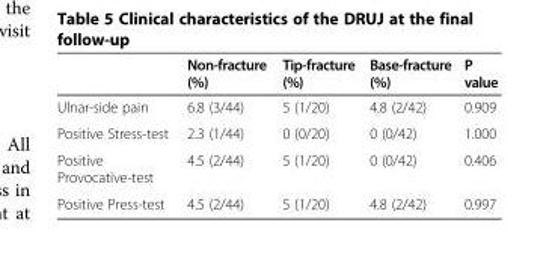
<table><thead><tr><td></td><td>Non-fracture (%)</td><td>Tip-fracture (%)</td><td>Base-fracture (%)</td><td>P value</td></tr></thead><tbody><tr><td>Ulnar-side pain</td><td>6.8 (3/44)</td><td>5 (1/20)</td><td>4.8 (2/42)</td><td>0.909</td></tr><tr><td>Positive Stress-test</td><td>2.3 (1/44)</td><td>0 (0/20)</td><td>0 (0/42)</td><td>1.000</td></tr><tr><td>Positive Provocative-test</td><td>4.5 (2/44)</td><td>5 (1/20)</td><td>0 (0/42)</td><td>0.406</td></tr><tr><td>Positive Press-test</td><td>4.5 (2/44)</td><td>5 (1/20)</td><td>4.8 (2/42)</td><td>0.997</td></tr></tbody></table>